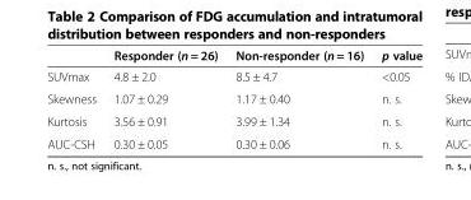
<table><thead><tr><td></td><td>Responder (n = 26)</td><td>Non-responder (n = 16)</td><td>p value</td></tr></thead><tbody><tr><td>SUVmax</td><td>4.8 ± 2.0</td><td>8.5 ± 4.7</td><td>&lt;0.05</td></tr><tr><td>Skewness</td><td>1.07 ± 0.29</td><td>1.17 ± 0.40</td><td>n. s.</td></tr><tr><td>Kurtosis</td><td>3.56 ± 0.91</td><td>3.99 ± 1.34</td><td>n. s.</td></tr><tr><td>AUC-CSH</td><td>0.30 ± 0.05</td><td>0.30 ± 0.06</td><td>n. s.</td></tr></tbody></table>